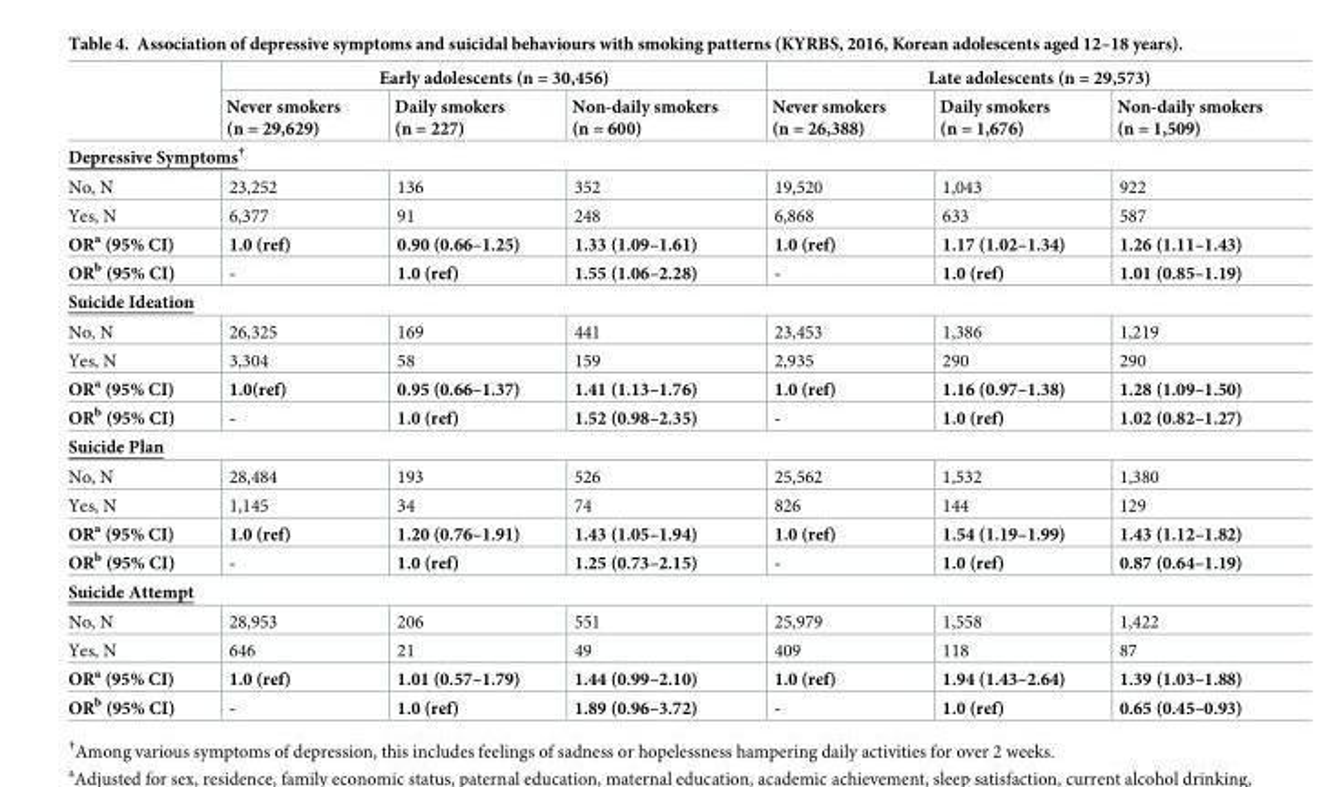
<table><thead><tr><td rowspan="2"></td><td colspan="3">Early adolescents (n = 30,456)</td><td colspan="3">Late adolescents (n = 29,573)</td></tr><tr><td>Never smokers (n = 29,629)</td><td>Daily smokers (n = 227)</td><td>Non-daily smokers (n = 600)</td><td>Never smokers (n = 26,388)</td><td>Daily smokers (n = 1,676)</td><td>Non-daily smokers (n = 1,509)</td></tr></thead><tbody><tr><td colspan="7">Depressive Symptoms<sup>†</sup></td></tr><tr><td>No, N</td><td>23,252</td><td>136</td><td>352</td><td>19,520</td><td>1,043</td><td>922</td></tr><tr><td>Yes, N</td><td>6,377</td><td>91</td><td>248</td><td>6,868</td><td>633</td><td>587</td></tr><tr><td>OR<sup>a</sup> (95% CI)</td><td>1.0 (ref)</td><td>0.90 (0.66–1.25)</td><td>1.33 (1.09–1.61)</td><td>1.0 (ref)</td><td>1.17 (1.02–1.34)</td><td>1.26 (1.11–1.43)</td></tr><tr><td>OR<sup>b</sup> (95% CI)</td><td>-</td><td>1.0 (ref)</td><td>1.55 (1.06–2.28)</td><td>-</td><td>1.0 (ref)</td><td>1.01 (0.85–1.19)</td></tr><tr><td colspan="7">Suicide Ideation</td></tr><tr><td>No, N</td><td>26,325</td><td>169</td><td>441</td><td>23,453</td><td>1,386</td><td>1,219</td></tr><tr><td>Yes, N</td><td>3,304</td><td>58</td><td>159</td><td>2,935</td><td>290</td><td>290</td></tr><tr><td>OR<sup>a</sup> (95% CI)</td><td>1.0(ref)</td><td>0.95 (0.66–1.37)</td><td>1.41 (1.13–1.76)</td><td>1.0 (ref)</td><td>1.16 (0.97–1.38)</td><td>1.28 (1.09–1.50)</td></tr><tr><td>OR<sup>b</sup> (95% CI)</td><td>-</td><td>1.0 (ref)</td><td>1.52 (0.98–2.35)</td><td>-</td><td>1.0 (ref)</td><td>1.02 (0.82–1.27)</td></tr><tr><td colspan="7">Suicide Plan</td></tr><tr><td>No, N</td><td>28,484</td><td>193</td><td>526</td><td>25,562</td><td>1,532</td><td>1,380</td></tr><tr><td>Yes, N</td><td>1,145</td><td>34</td><td>74</td><td>826</td><td>144</td><td>129</td></tr><tr><td>OR<sup>a</sup> (95% CI)</td><td>1.0 (ref)</td><td>1.20 (0.76–1.91)</td><td>1.43 (1.05–1.94)</td><td>1.0 (ref)</td><td>1.54 (1.19–1.99)</td><td>1.43 (1.12–1.82)</td></tr><tr><td>OR<sup>b</sup> (95% CI)</td><td>-</td><td>1.0 (ref)</td><td>1.25 (0.73–2.15)</td><td>-</td><td>1.0 (ref)</td><td>0.87 (0.64–1.19)</td></tr><tr><td colspan="7">Suicide Attempt</td></tr><tr><td>No, N</td><td>28,953</td><td>206</td><td>551</td><td>25,979</td><td>1,558</td><td>1,422</td></tr><tr><td>Yes, N</td><td>646</td><td>21</td><td>49</td><td>409</td><td>118</td><td>87</td></tr><tr><td>OR<sup>a</sup> (95% CI)</td><td>1.0 (ref)</td><td>1.01 (0.57–1.79)</td><td>1.44 (0.99–2.10)</td><td>1.0 (ref)</td><td>1.94 (1.43–2.64)</td><td>1.39 (1.03–1.88)</td></tr><tr><td>OR<sup>b</sup> (95% CI)</td><td>-</td><td>1.0 (ref)</td><td>1.89 (0.96–3.72)</td><td>-</td><td>1.0 (ref)</td><td>0.65 (0.45–0.93)</td></tr></tbody></table>